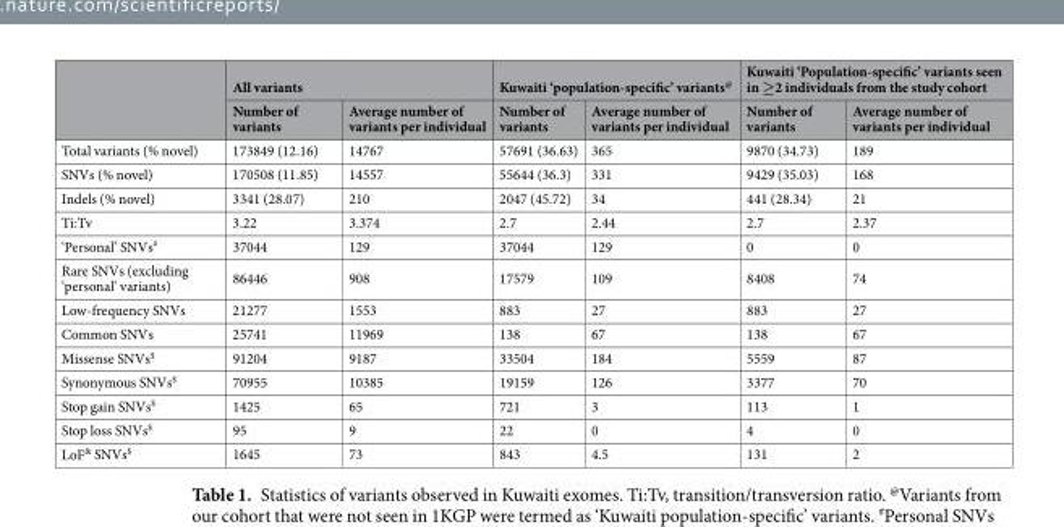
<table><thead><tr><td rowspan="2"></td><td colspan="2">All variants</td><td colspan="2">Kuwaiti ‘population-specific’ variants<sup>@</sup></td><td colspan="2">Kuwaiti ‘Population-specific’ variants seen in ≥2 individuals from the study cohort</td></tr><tr><td>Number of variants</td><td>Average number of variants per individual</td><td>Number of variants</td><td>Average number of variants per individual</td><td>Number of variants</td><td>Average number of variants per individual</td></tr></thead><tbody><tr><td>Total variants (% novel)</td><td>173849 (12.16)</td><td>14767</td><td>57691 (36.63)</td><td>365</td><td>9870 (34.73)</td><td>189</td></tr><tr><td>SNVs (% novel)</td><td>170508 (11.85)</td><td>14557</td><td>55644 (36.3)</td><td>331</td><td>9429 (35.03)</td><td>168</td></tr><tr><td>Indels (% novel)</td><td>3341 (28.07)</td><td>210</td><td>2047 (45.72)</td><td>34</td><td>441 (28.34)</td><td>21</td></tr><tr><td>Ti:Tv</td><td>3.22</td><td>3.374</td><td>2.7</td><td>2.44</td><td>2.7</td><td>2.37</td></tr><tr><td>‘Personal’ SNVs<sup>#</sup></td><td>37044</td><td>129</td><td>37044</td><td>129</td><td>0</td><td>0</td></tr><tr><td>Rare SNVs (excluding ‘personal’ variants)</td><td>86446</td><td>908</td><td>17579</td><td>109</td><td>8408</td><td>74</td></tr><tr><td>Low-frequency SNVs</td><td>21277</td><td>1553</td><td>883</td><td>27</td><td>883</td><td>27</td></tr><tr><td>Common SNVs</td><td>25741</td><td>11969</td><td>138</td><td>67</td><td>138</td><td>67</td></tr><tr><td>Missense SNVs<sup>$</sup></td><td>91204</td><td>9187</td><td>33504</td><td>184</td><td>5559</td><td>87</td></tr><tr><td>Synonymous SNVs<sup>$</sup></td><td>70955</td><td>10385</td><td>19159</td><td>126</td><td>3377</td><td>70</td></tr><tr><td>Stop gain SNVs<sup>$</sup></td><td>1425</td><td>65</td><td>721</td><td>3</td><td>113</td><td>1</td></tr><tr><td>Stop loss SNVs<sup>$</sup></td><td>95</td><td>9</td><td>22</td><td>0</td><td>4</td><td>0</td></tr><tr><td>LoF<sup>&amp;</sup> SNVs<sup>$</sup></td><td>1645</td><td>73</td><td>843</td><td>4.5</td><td>131</td><td>2</td></tr></tbody></table>